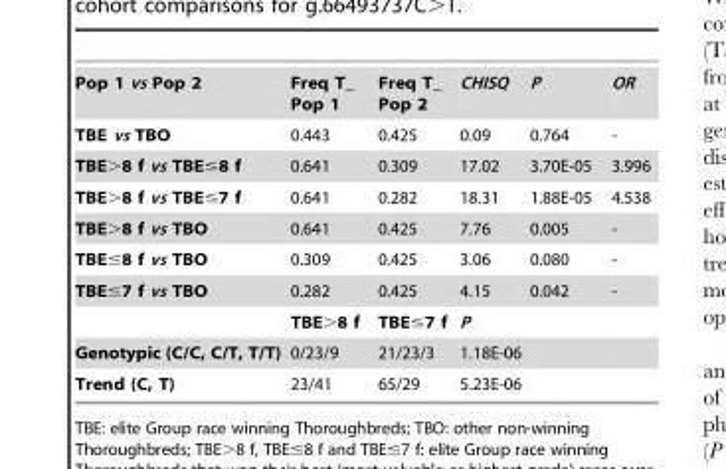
<table><tbody><tr><td>Pop 1 vs Pop 2</td><td>Freq T_ Pop 1</td><td>Freq T_ Pop 2</td><td>CHISQ</td><td>P</td><td>OR</td></tr><tr><td>TBE vs TBO</td><td>0.443</td><td>0.425</td><td>0.09</td><td>0.764</td><td>-</td></tr><tr><td>TBE&gt;8 f vs TBE≤8 f</td><td>0.641</td><td>0.309</td><td>17.02</td><td>3.70E-05</td><td>3.996</td></tr><tr><td>TBE&gt;8 f vs TBE≤7 f</td><td>0.641</td><td>0.282</td><td>18.31</td><td>1.88E-05</td><td>4.538</td></tr><tr><td>TBE&gt;8 f vs TBO</td><td>0.641</td><td>0.425</td><td>7.76</td><td>0.005</td><td>-</td></tr><tr><td>TBE≤8 f vs TBO</td><td>0.309</td><td>0.425</td><td>3.06</td><td>0.080</td><td>-</td></tr><tr><td rowspan="2">TBE≤7 f vs TBO</td><td>0.282</td><td>0.425</td><td>4.15</td><td>0.042</td><td>-</td></tr><tr><td>TBE&gt;8 f</td><td>TBE≤7 f</td><td>P</td><td></td><td></td></tr><tr><td>Genotypic (C/C, C/T, T/T)</td><td>0/23/9</td><td>21/23/3</td><td>1.18E-06</td><td></td><td></td></tr><tr><td>Trend (C, T)</td><td>23/41</td><td>65/29</td><td>5.23E-06</td><td></td><td></td></tr></tbody></table>